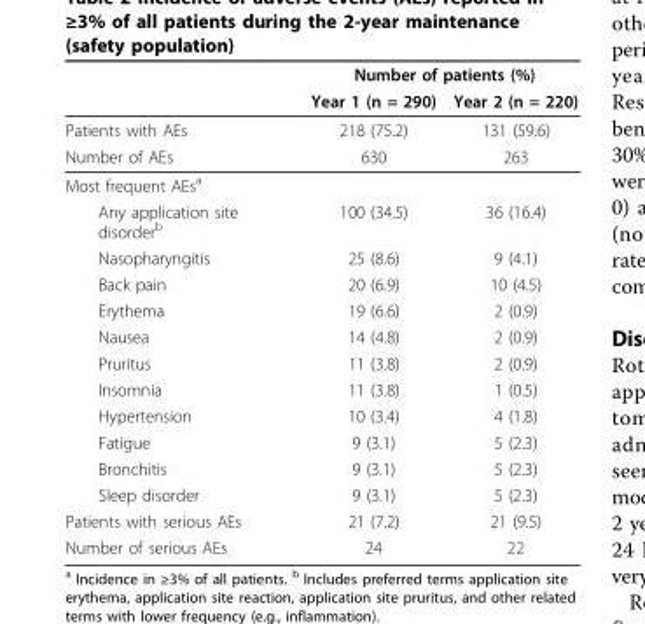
<table><thead><tr><td rowspan="2"></td><td colspan="2">Number of patients (%)</td></tr><tr><td>Year 1 (n = 290)</td><td>Year 2 (n = 220)</td></tr></thead><tbody><tr><td>Patients with AEs</td><td>218 (75.2)</td><td>131 (59.6)</td></tr><tr><td>Number of AEs</td><td>630</td><td>263</td></tr><tr><td colspan="3">Most frequent AEs<sup>a</sup></td></tr><tr><td>Any application site disorder<sup>b</sup></td><td>100 (34.5)</td><td>36 (16.4)</td></tr><tr><td>Nasopharyngitis</td><td>25 (8.6)</td><td>9 (4.1)</td></tr><tr><td>Back pain</td><td>20 (6.9)</td><td>10 (4.5)</td></tr><tr><td>Erythema</td><td>19 (6.6)</td><td>2 (0.9)</td></tr><tr><td>Nausea</td><td>14 (4.8)</td><td>2 (0.9)</td></tr><tr><td>Pruritus</td><td>11 (3.8)</td><td>2 (0.9)</td></tr><tr><td>Insomnia</td><td>11 (3.8)</td><td>1 (0.5)</td></tr><tr><td>Hypertension</td><td>10 (3.4)</td><td>4 (1.8)</td></tr><tr><td>Fatigue</td><td>9 (3.1)</td><td>5 (2.3)</td></tr><tr><td>Bronchitis</td><td>9 (3.1)</td><td>5 (2.3)</td></tr><tr><td>Sleep disorder</td><td>9 (3.1)</td><td>5 (2.3)</td></tr><tr><td>Patients with serious AEs</td><td>21 (7.2)</td><td>21 (9.5)</td></tr><tr><td>Number of serious AEs</td><td>24</td><td>22</td></tr></tbody></table>